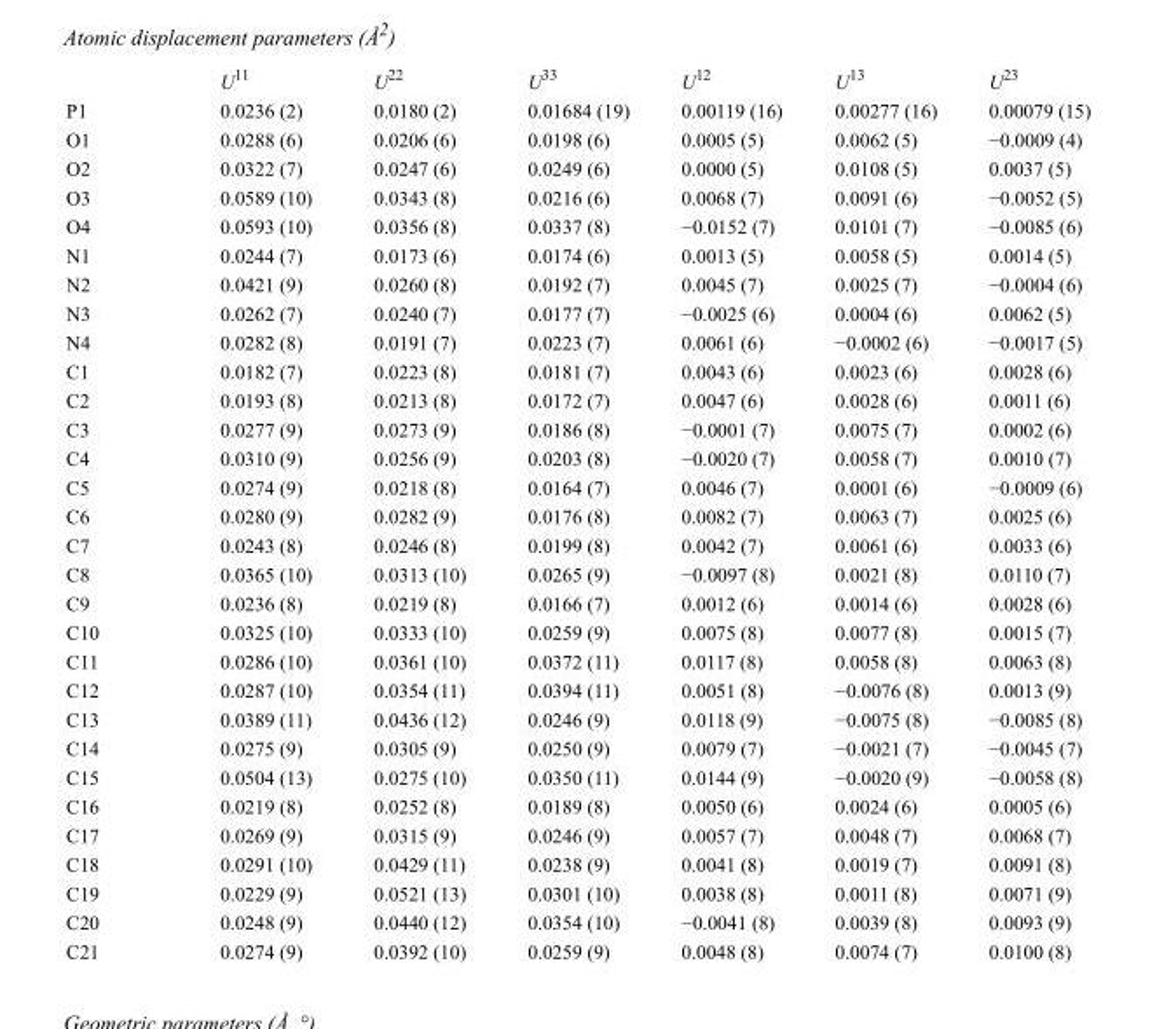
<table><thead><tr><td></td><td>U<sup>11</sup></td><td>U<sup>22</sup></td><td>U<sup>33</sup></td><td>U<sup>12</sup></td><td>U<sup>13</sup></td><td>U<sup>23</sup></td></tr></thead><tbody><tr><td>P1</td><td>0.0236 (2)</td><td>0.0180 (2)</td><td>0.01684 (19)</td><td>0.00119 (16)</td><td>0.00277 (16)</td><td>0.00079 (15)</td></tr><tr><td>O1</td><td>0.0288 (6)</td><td>0.0206 (6)</td><td>0.0198 (6)</td><td>0.0005 (5)</td><td>0.0062 (5)</td><td>−0.0009 (4)</td></tr><tr><td>O2</td><td>0.0322 (7)</td><td>0.0247 (6)</td><td>0.0249 (6)</td><td>0.0000 (5)</td><td>0.0108 (5)</td><td>0.0037 (5)</td></tr><tr><td>O3</td><td>0.0589 (10)</td><td>0.0343 (8)</td><td>0.0216 (6)</td><td>0.0068 (7)</td><td>0.0091 (6)</td><td>−0.0052 (5)</td></tr><tr><td>O4</td><td>0.0593 (10)</td><td>0.0356 (8)</td><td>0.0337 (8)</td><td>−0.0152 (7)</td><td>0.0101 (7)</td><td>−0.0085 (6)</td></tr><tr><td>N1</td><td>0.0244 (7)</td><td>0.0173 (6)</td><td>0.0174 (6)</td><td>0.0013 (5)</td><td>0.0058 (5)</td><td>0.0014 (5)</td></tr><tr><td>N2</td><td>0.0421 (9)</td><td>0.0260 (8)</td><td>0.0192 (7)</td><td>0.0045 (7)</td><td>0.0025 (7)</td><td>−0.0004 (6)</td></tr><tr><td>N3</td><td>0.0262 (7)</td><td>0.0240 (7)</td><td>0.0177 (7)</td><td>−0.0025 (6)</td><td>0.0004 (6)</td><td>0.0062 (5)</td></tr><tr><td>N4</td><td>0.0282 (8)</td><td>0.0191 (7)</td><td>0.0223 (7)</td><td>0.0061 (6)</td><td>−0.0002 (6)</td><td>−0.0017 (5)</td></tr><tr><td>C1</td><td>0.0182 (7)</td><td>0.0223 (8)</td><td>0.0181 (7)</td><td>0.0043 (6)</td><td>0.0023 (6)</td><td>0.0028 (6)</td></tr><tr><td>C2</td><td>0.0193 (8)</td><td>0.0213 (8)</td><td>0.0172 (7)</td><td>0.0047 (6)</td><td>0.0028 (6)</td><td>0.0011 (6)</td></tr><tr><td>C3</td><td>0.0277 (9)</td><td>0.0273 (9)</td><td>0.0186 (8)</td><td>−0.0001 (7)</td><td>0.0075 (7)</td><td>0.0002 (6)</td></tr><tr><td>C4</td><td>0.0310 (9)</td><td>0.0256 (9)</td><td>0.0203 (8)</td><td>−0.0020 (7)</td><td>0.0058 (7)</td><td>0.0010 (7)</td></tr><tr><td>C5</td><td>0.0274 (9)</td><td>0.0218 (8)</td><td>0.0164 (7)</td><td>0.0046 (7)</td><td>0.0001 (6)</td><td>−0.0009 (6)</td></tr><tr><td>C6</td><td>0.0280 (9)</td><td>0.0282 (9)</td><td>0.0176 (8)</td><td>0.0082 (7)</td><td>0.0063 (7)</td><td>0.0025 (6)</td></tr><tr><td>C7</td><td>0.0243 (8)</td><td>0.0246 (8)</td><td>0.0199 (8)</td><td>0.0042 (7)</td><td>0.0061 (6)</td><td>0.0033 (6)</td></tr><tr><td>C8</td><td>0.0365 (10)</td><td>0.0313 (10)</td><td>0.0265 (9)</td><td>−0.0097 (8)</td><td>0.0021 (8)</td><td>0.0110 (7)</td></tr><tr><td>C9</td><td>0.0236 (8)</td><td>0.0219 (8)</td><td>0.0166 (7)</td><td>0.0012 (6)</td><td>0.0014 (6)</td><td>0.0028 (6)</td></tr><tr><td>C10</td><td>0.0325 (10)</td><td>0.0333 (10)</td><td>0.0259 (9)</td><td>0.0075 (8)</td><td>0.0077 (8)</td><td>0.0015 (7)</td></tr><tr><td>C11</td><td>0.0286 (10)</td><td>0.0361 (10)</td><td>0.0372 (11)</td><td>0.0117 (8)</td><td>0.0058 (8)</td><td>0.0063 (8)</td></tr><tr><td>C12</td><td>0.0287 (10)</td><td>0.0354 (11)</td><td>0.0394 (11)</td><td>0.0051 (8)</td><td>−0.0076 (8)</td><td>0.0013 (9)</td></tr><tr><td>C13</td><td>0.0389 (11)</td><td>0.0436 (12)</td><td>0.0246 (9)</td><td>0.0118 (9)</td><td>−0.0075 (8)</td><td>−0.0085 (8)</td></tr><tr><td>C14</td><td>0.0275 (9)</td><td>0.0305 (9)</td><td>0.0250 (9)</td><td>0.0079 (7)</td><td>−0.0021 (7)</td><td>−0.0045 (7)</td></tr><tr><td>C15</td><td>0.0504 (13)</td><td>0.0275 (10)</td><td>0.0350 (11)</td><td>0.0144 (9)</td><td>−0.0020 (9)</td><td>−0.0058 (8)</td></tr><tr><td>C16</td><td>0.0219 (8)</td><td>0.0252 (8)</td><td>0.0189 (8)</td><td>0.0050 (6)</td><td>0.0024 (6)</td><td>0.0005 (6)</td></tr><tr><td>C17</td><td>0.0269 (9)</td><td>0.0315 (9)</td><td>0.0246 (9)</td><td>0.0057 (7)</td><td>0.0048 (7)</td><td>0.0068 (7)</td></tr><tr><td>C18</td><td>0.0291 (10)</td><td>0.0429 (11)</td><td>0.0238 (9)</td><td>0.0041 (8)</td><td>0.0019 (7)</td><td>0.0091 (8)</td></tr><tr><td>C19</td><td>0.0229 (9)</td><td>0.0521 (13)</td><td>0.0301 (10)</td><td>0.0038 (8)</td><td>0.0011 (8)</td><td>0.0071 (9)</td></tr><tr><td>C20</td><td>0.0248 (9)</td><td>0.0440 (12)</td><td>0.0354 (10)</td><td>−0.0041 (8)</td><td>0.0039 (8)</td><td>0.0093 (9)</td></tr><tr><td>C21</td><td>0.0274 (9)</td><td>0.0392 (10)</td><td>0.0259 (9)</td><td>0.0048 (8)</td><td>0.0074 (7)</td><td>0.0100 (8)</td></tr></tbody></table>